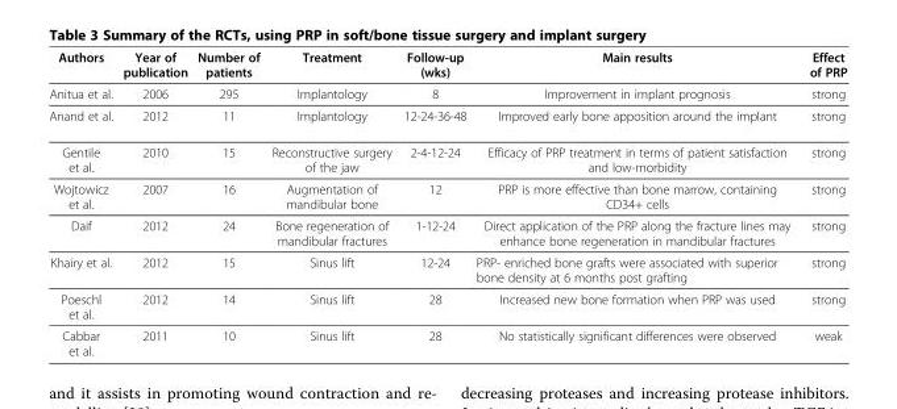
<table><thead><tr><td>Authors</td><td>Year of publication</td><td>Number of patients</td><td>Treatment</td><td>Follow-up (wks)</td><td>Main results</td><td>Effect of PRP</td></tr></thead><tbody><tr><td>Anitua et al.</td><td>2006</td><td>295</td><td>Implantology</td><td>8</td><td>Improvement in implant prognosis</td><td>strong</td></tr><tr><td>Anand et al.</td><td>2012</td><td>11</td><td>Implantology</td><td>12-24-36-48</td><td>Improved early bone apposition around the implant</td><td>strong</td></tr><tr><td>Gentile et al.</td><td>2010</td><td>15</td><td>Reconstructive surgery of the jaw</td><td>2-4-12-24</td><td>Efficacy of PRP treatment in terms of patient satisfaction and low-morbidity</td><td>strong</td></tr><tr><td>Wojtowicz et al.</td><td>2007</td><td>16</td><td>Augmentation of mandibular bone</td><td>12</td><td>PRP is more effective than bone marrow, containing CD34+ cells</td><td>strong</td></tr><tr><td>Daif</td><td>2012</td><td>24</td><td>Bone regeneration of mandibular fractures</td><td>1-12-24</td><td>Direct application of the PRP along the fracture lines may enhance bone regeneration in mandibular fractures</td><td>strong</td></tr><tr><td>Khairy et al.</td><td>2012</td><td>15</td><td>Sinus lift</td><td>12-24</td><td>PRP- enriched bone grafts were associated with superior bone density at 6 months post grafting</td><td>strong</td></tr><tr><td>Poeschl et al.</td><td>2012</td><td>14</td><td>Sinus lift</td><td>28</td><td>Increased new bone formation when PRP was used</td><td>strong</td></tr><tr><td>Cabbar et al.</td><td>2011</td><td>10</td><td>Sinus lift</td><td>28</td><td>No statistically significant differences were observed</td><td>weak</td></tr></tbody></table>